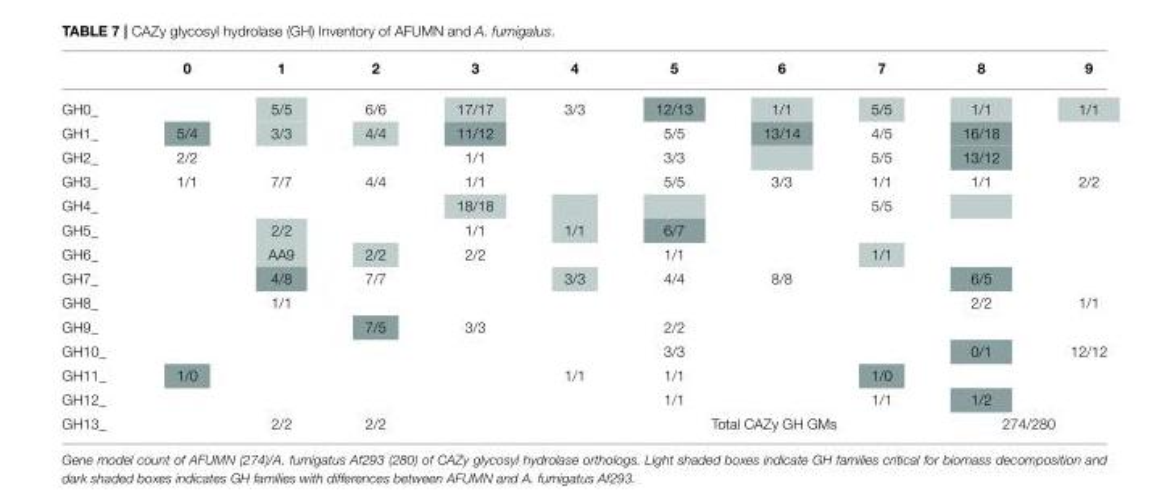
<table><thead><tr><td></td><td>0</td><td>1</td><td>2</td><td>3</td><td>4</td><td>5</td><td>6</td><td>7</td><td>8</td><td>9</td></tr></thead><tbody><tr><td>GH0_</td><td></td><td>5/5</td><td>6/6</td><td>17/17</td><td>3/3</td><td>12/13</td><td>1/1</td><td>5/5</td><td>1/1</td><td>1/1</td></tr><tr><td>GH1_</td><td>5/4</td><td>3/3</td><td>4/4</td><td>11/12</td><td></td><td>5/5</td><td>13/14</td><td>4/5</td><td>16/18</td><td></td></tr><tr><td>GH2_</td><td>2/2</td><td></td><td></td><td>1/1</td><td></td><td>3/3</td><td></td><td>5/5</td><td>13/12</td><td></td></tr><tr><td>GH3_</td><td>1/1</td><td>7/7</td><td>4/4</td><td>1/1</td><td></td><td>5/5</td><td>3/3</td><td>1/1</td><td>1/1</td><td>2/2</td></tr><tr><td>GH4_</td><td></td><td></td><td></td><td>18/18</td><td></td><td></td><td></td><td>5/5</td><td></td><td></td></tr><tr><td>GH5_</td><td></td><td>2/2</td><td></td><td>1/1</td><td>1/1</td><td>6/7</td><td></td><td></td><td></td><td></td></tr><tr><td>GH6_</td><td></td><td>AA9</td><td>2/2</td><td>2/2</td><td></td><td>1/1</td><td></td><td>1/1</td><td></td><td></td></tr><tr><td>GH7_</td><td></td><td>4/8</td><td>7/7</td><td></td><td>3/3</td><td>4/4</td><td>8/8</td><td></td><td>6/5</td><td></td></tr><tr><td>GH8_</td><td></td><td>1/1</td><td></td><td></td><td></td><td></td><td></td><td></td><td>2/2</td><td>1/1</td></tr><tr><td>GH9_</td><td></td><td></td><td>7/5</td><td>3/3</td><td></td><td>2/2</td><td></td><td></td><td></td><td></td></tr><tr><td>GH10_</td><td></td><td></td><td></td><td></td><td></td><td>3/3</td><td></td><td></td><td>0/1</td><td>12/12</td></tr><tr><td>GH11_</td><td>1/0</td><td></td><td></td><td></td><td>1/1</td><td>1/1</td><td></td><td>1/0</td><td></td><td></td></tr><tr><td>GH12_</td><td></td><td></td><td></td><td></td><td></td><td>1/1</td><td></td><td>1/1</td><td>1/2</td><td></td></tr><tr><td>GH13_</td><td></td><td>2/2</td><td>2/2</td><td></td><td></td><td colspan="3">Total CAZy GH GMs</td><td colspan="2">274/280</td></tr></tbody></table>